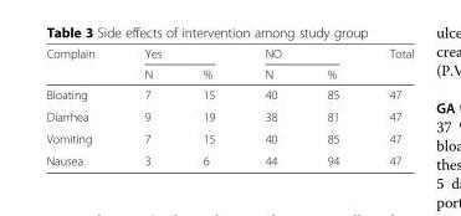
<table><thead><tr><td rowspan="2">Complain</td><td colspan="2">Yes</td><td colspan="2">NO</td><td rowspan="2">Total</td></tr><tr><td>N</td><td>%</td><td>N</td><td>%</td></tr></thead><tbody><tr><td>Bloating</td><td>7</td><td>15</td><td>40</td><td>85</td><td>47</td></tr><tr><td>Diarrhea</td><td>9</td><td>19</td><td>38</td><td>81</td><td>47</td></tr><tr><td>Vomiting</td><td>7</td><td>15</td><td>40</td><td>85</td><td>47</td></tr><tr><td>Nausea</td><td>3</td><td>6</td><td>44</td><td>94</td><td>47</td></tr></tbody></table>